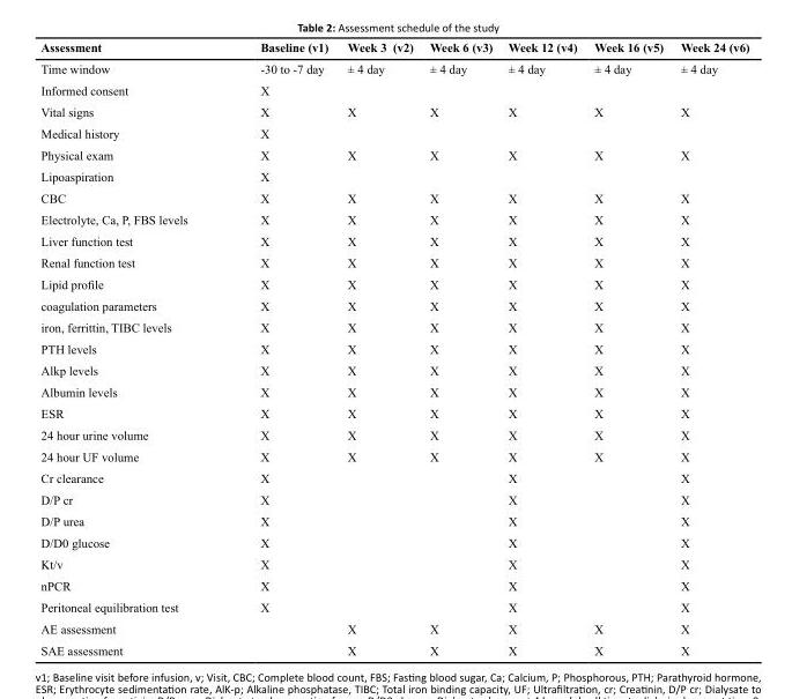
<table><thead><tr><td>Assessment</td><td>Baseline (v1)</td><td>Week 3 (v2)</td><td>Week 6 (v3)</td><td>Week 12 (v4)</td><td>Week 16 (v5)</td><td>Week 24 (v6)</td></tr></thead><tbody><tr><td>Time window</td><td>-30 to -7 day</td><td>± 4 day</td><td>± 4 day</td><td>± 4 day</td><td>± 4 day</td><td>± 4 day</td></tr><tr><td>Informed consent</td><td>X</td><td></td><td></td><td></td><td></td><td></td></tr><tr><td>Vital signs</td><td>X</td><td>X</td><td>X</td><td>X</td><td>X</td><td>X</td></tr><tr><td>Medical history</td><td>X</td><td></td><td></td><td></td><td></td><td></td></tr><tr><td>Physical exam</td><td>X</td><td>X</td><td>X</td><td>X</td><td>X</td><td>X</td></tr><tr><td>Lipoaspiration</td><td>X</td><td></td><td></td><td></td><td></td><td></td></tr><tr><td>CBC</td><td>X</td><td>X</td><td>X</td><td>X</td><td>X</td><td>X</td></tr><tr><td>Electrolyte, Ca, P, FBS levels</td><td>X</td><td>X</td><td>X</td><td>X</td><td>X</td><td>X</td></tr><tr><td>Liver function test</td><td>X</td><td>X</td><td>X</td><td>X</td><td>X</td><td>X</td></tr><tr><td>Renal function test</td><td>X</td><td>X</td><td>X</td><td>X</td><td>X</td><td>X</td></tr><tr><td>Lipid profile</td><td>X</td><td>X</td><td>X</td><td>X</td><td>X</td><td>X</td></tr><tr><td>coagulation parameters</td><td>X</td><td>X</td><td>X</td><td>X</td><td>X</td><td>X</td></tr><tr><td>iron, ferrittin, TIBC levels</td><td>X</td><td>X</td><td>X</td><td>X</td><td>X</td><td>X</td></tr><tr><td>PTH levels</td><td>X</td><td>X</td><td>X</td><td>X</td><td>X</td><td>X</td></tr><tr><td>Alkp levels</td><td>X</td><td>X</td><td>X</td><td>X</td><td>X</td><td>X</td></tr><tr><td>Albumin levels</td><td>X</td><td>X</td><td>X</td><td>X</td><td>X</td><td>X</td></tr><tr><td>ESR</td><td>X</td><td>X</td><td>X</td><td>X</td><td>X</td><td>X</td></tr><tr><td>24 hour urine volume</td><td>X</td><td>X</td><td>X</td><td>X</td><td>X</td><td>X</td></tr><tr><td>24 hour UF volume</td><td>X</td><td>X</td><td>X</td><td>X</td><td>X</td><td>X</td></tr><tr><td>Cr clearance</td><td>X</td><td></td><td></td><td>X</td><td></td><td>X</td></tr><tr><td>D/P cr</td><td>X</td><td></td><td></td><td>X</td><td></td><td>X</td></tr><tr><td>D/P urea</td><td>X</td><td></td><td></td><td>X</td><td></td><td>X</td></tr><tr><td>D/D0 glucose</td><td>X</td><td></td><td></td><td>X</td><td></td><td>X</td></tr><tr><td>Kt/v</td><td>X</td><td></td><td></td><td>X</td><td></td><td>X</td></tr><tr><td>nPCR</td><td>X</td><td></td><td></td><td>X</td><td></td><td>X</td></tr><tr><td>Peritoneal equilibration test</td><td>X</td><td></td><td></td><td>X</td><td></td><td>X</td></tr><tr><td>AE assessment</td><td></td><td>X</td><td>X</td><td>X</td><td>X</td><td>X</td></tr><tr><td>SAE assessment</td><td></td><td>X</td><td>X</td><td>X</td><td>X</td><td>X</td></tr></tbody></table>